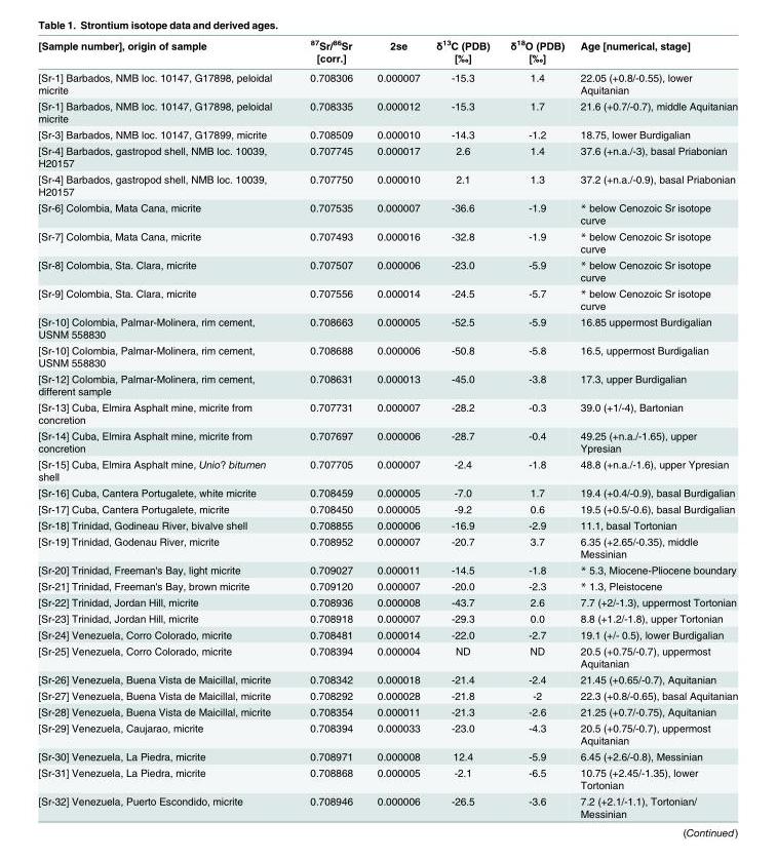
<table><thead><tr><td>[Sample number], origin of sample</td><td><sup>87</sup>Sr/<sup>86</sup>Sr [corr.]</td><td>2se</td><td>δ<sup>13</sup>C (PDB) [‰]</td><td>δ<sup>18</sup>O (PDB) [‰]</td><td>Age [numerical, stage]</td></tr></thead><tbody><tr><td>[Sr-1] Barbados, NMB loc. 10147, G17898, peloidal micrite</td><td>0.708306</td><td>0.000007</td><td>-15.3</td><td>1.4</td><td>22.05 (+0.8/-0.55), lower Aquitanian</td></tr><tr><td>[Sr-1] Barbados, NMB loc. 10147, G17898, peloidal micrite</td><td>0.708335</td><td>0.000012</td><td>-15.3</td><td>1.7</td><td>21.6 (+0.7/-0.7), middle Aquitanian</td></tr><tr><td>[Sr-3] Barbados, NMB loc. 10147, G17899, micrite</td><td>0.708509</td><td>0.000010</td><td>-14.3</td><td>-1.2</td><td>18.75, lower Burdigalian</td></tr><tr><td>[Sr-4] Barbados, gastropod shell, NMB loc. 10039, H20157</td><td>0.707745</td><td>0.000017</td><td>2.6</td><td>1.4</td><td>37.6 (+n.a./-3), basal Priabonian</td></tr><tr><td>[Sr-4] Barbados, gastropod shell, NMB loc. 10039, H20157</td><td>0.707750</td><td>0.000010</td><td>2.1</td><td>1.3</td><td>37.2 (+n.a./-0.9), basal Priabonian</td></tr><tr><td>[Sr-6] Colombia, Mata Cana, micrite</td><td>0.707535</td><td>0.000007</td><td>-36.6</td><td>-1.9</td><td>* below Cenozoic Sr isotope curve</td></tr><tr><td>[Sr-7] Colombia, Mata Cana, micrite</td><td>0.707493</td><td>0.000016</td><td>-32.8</td><td>-1.9</td><td>* below Cenozoic Sr isotope curve</td></tr><tr><td>[Sr-8] Colombia, Sta. Clara, micrite</td><td>0.707507</td><td>0.000006</td><td>-23.0</td><td>-5.9</td><td>* below Cenozoic Sr isotope curve</td></tr><tr><td>[Sr-9] Colombia, Sta. Clara, micrite</td><td>0.707556</td><td>0.000014</td><td>-24.5</td><td>-5.7</td><td>* below Cenozoic Sr isotope curve</td></tr><tr><td>[Sr-10] Colombia, Palmar-Molinera, rim cement, USNM 558830</td><td>0.708663</td><td>0.000005</td><td>-52.5</td><td>-5.9</td><td>16.85 uppermost Burdigalian</td></tr><tr><td>[Sr-10] Colombia, Palmar-Molinera, rim cement, USNM 558830</td><td>0.708688</td><td>0.000006</td><td>-50.8</td><td>-5.8</td><td>16.5, uppermost Burdigalian</td></tr><tr><td>[Sr-12] Colombia, Palmar-Molinera, rim cement, different sample</td><td>0.708631</td><td>0.000013</td><td>-45.0</td><td>-3.8</td><td>17.3, upper Burdigalian</td></tr><tr><td>[Sr-13] Cuba, Elmira Asphalt mine, micrite from concretion</td><td>0.707731</td><td>0.000007</td><td>-28.2</td><td>-0.3</td><td>39.0 (+1/-4), Bartonian</td></tr><tr><td>[Sr-14] Cuba, Elmira Asphalt mine, micrite from concretion</td><td>0.707697</td><td>0.000006</td><td>-28.7</td><td>-0.4</td><td>49.25 (+n.a./-1.65), upper Ypresian</td></tr><tr><td>[Sr-15] Cuba, Elmira Asphalt mine, Unio? bitumen shell</td><td>0.707705</td><td>0.000007</td><td>-2.4</td><td>-1.8</td><td>48.8 (+n.a./-1.6), upper Ypresian</td></tr><tr><td>[Sr-16] Cuba, Cantera Portugalete, white micrite</td><td>0.708459</td><td>0.000005</td><td>-7.0</td><td>1.7</td><td>19.4 (+0.4/-0.9), basal Burdigalian</td></tr><tr><td>[Sr-17] Cuba, Cantera Portugalete, micrite</td><td>0.708450</td><td>0.000005</td><td>-9.2</td><td>0.6</td><td>19.5 (+0.5/-0.6), basal Burdigalian</td></tr><tr><td>[Sr-18] Trinidad, Godineau River, bivalve shell</td><td>0.708855</td><td>0.000006</td><td>-16.9</td><td>-2.9</td><td>11.1, basal Tortonian</td></tr><tr><td>[Sr-19] Trinidad, Godenau River, micrite</td><td>0.708952</td><td>0.000007</td><td>-20.7</td><td>3.7</td><td>6.35 (+2.65/-0.35), middle Messinian</td></tr><tr><td>[Sr-20] Trinidad, Freeman&#x27;s Bay, light micrite</td><td>0.709027</td><td>0.000011</td><td>-14.5</td><td>-1.8</td><td>* 5.3, Miocene-Pliocene boundary</td></tr><tr><td>[Sr-21] Trinidad, Freeman&#x27;s Bay, brown micrite</td><td>0.709120</td><td>0.000007</td><td>-20.0</td><td>-2.3</td><td>* 1.3, Pleistocene</td></tr><tr><td>[Sr-22] Trinidad, Jordan Hill, micrite</td><td>0.708936</td><td>0.000008</td><td>-43.7</td><td>2.6</td><td>7.7 (+2/-1.3), uppermost Tortonian</td></tr><tr><td>[Sr-23] Trinidad, Jordan Hill, micrite</td><td>0.708918</td><td>0.000007</td><td>-29.3</td><td>0.0</td><td>8.8 (+1.2/-1.8), upper Tortonian</td></tr><tr><td>[Sr-24] Venezuela, Corro Colorado, micrite</td><td>0.708481</td><td>0.000014</td><td>-22.0</td><td>-2.7</td><td>19.1 (+/- 0.5), lower Burdigalian</td></tr><tr><td>[Sr-25] Venezuela, Corro Colorado, micrite</td><td>0.708394</td><td>0.000004</td><td>ND</td><td>ND</td><td>20.5 (+0.75/-0.7), uppermost Aquitanian</td></tr><tr><td>[Sr-26] Venezuela, Buena Vista de Maicillal, micrite</td><td>0.708342</td><td>0.000018</td><td>-21.4</td><td>-2.4</td><td>21.45 (+0.65/-0.7), Aquitanian</td></tr><tr><td>[Sr-27] Venezuela, Buena Vista de Maicillal, micrite</td><td>0.708292</td><td>0.000028</td><td>-21.8</td><td>-2</td><td>22.3 (+0.8/-0.65), basal Aquitanian</td></tr><tr><td>[Sr-28] Venezuela, Buena Vista de Maicillal, micrite</td><td>0.708354</td><td>0.000011</td><td>-21.3</td><td>-2.6</td><td>21.25 (+0.7/-0.75), Aquitanian</td></tr><tr><td>[Sr-29] Venezuela, Caujarao, micrite</td><td>0.708394</td><td>0.000033</td><td>-23.0</td><td>-4.3</td><td>20.5 (+0.75/-0.7), uppermost Aquitanian</td></tr><tr><td>[Sr-30] Venezuela, La Piedra, micrite</td><td>0.708971</td><td>0.000008</td><td>12.4</td><td>-5.9</td><td>6.45 (+2.6/-0.8), Messinian</td></tr><tr><td>[Sr-31] Venezuela, La Piedra, micrite</td><td>0.708868</td><td>0.000005</td><td>-2.1</td><td>-6.5</td><td>10.75 (+2.45/-1.35), lower Tortonian</td></tr><tr><td>[Sr-32] Venezuela, Puerto Escondido, micrite</td><td>0.708946</td><td>0.000006</td><td>-26.5</td><td>-3.6</td><td>7.2 (+2.1/-1.1), Tortonian/</td></tr><tr><td></td><td></td><td></td><td></td><td></td><td>Messinian</td></tr></tbody></table>